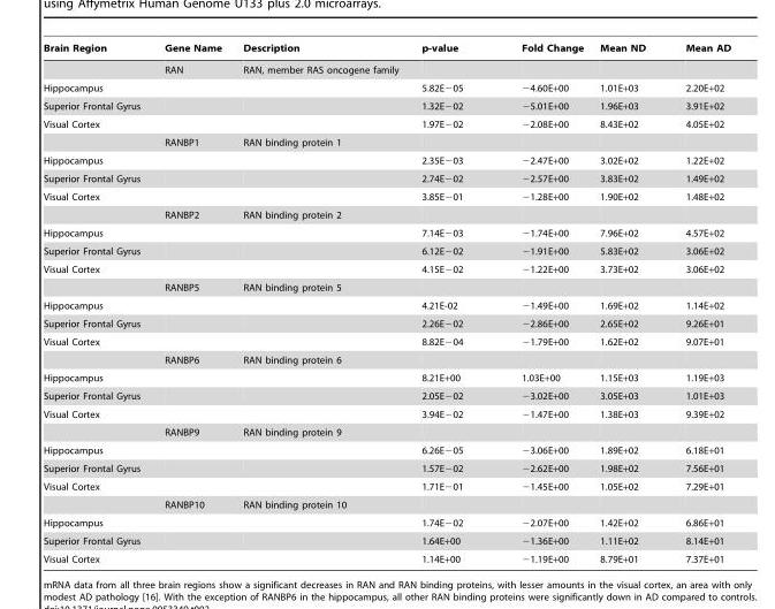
<table><thead><tr><td>Brain Region</td><td>Gene Name</td><td>Description</td><td>p-value</td><td>Fold Change</td><td>Mean ND</td><td>Mean AD</td></tr></thead><tbody><tr><td></td><td>RAN</td><td>RAN, member RAS oncogene family</td><td></td><td></td><td></td><td></td></tr><tr><td>Hippocampus</td><td></td><td></td><td>5.82E−05</td><td>−4.60E+00</td><td>1.01E+03</td><td>2.20E+02</td></tr><tr><td>Superior Frontal Gyrus</td><td></td><td></td><td>1.32E−02</td><td>−5.01E+00</td><td>1.96E+03</td><td>3.91E+02</td></tr><tr><td rowspan="2">Visual Cortex</td><td></td><td></td><td>1.97E−02</td><td>−2.08E+00</td><td>8.43E+02</td><td>4.05E+02</td></tr><tr><td>RANBP1</td><td>RAN binding protein 1</td><td></td><td></td><td></td><td></td></tr><tr><td>Hippocampus</td><td></td><td></td><td>2.35E−03</td><td>−2.47E+00</td><td>3.02E+02</td><td>1.22E+02</td></tr><tr><td>Superior Frontal Gyrus</td><td></td><td></td><td>2.74E−02</td><td>−2.57E+00</td><td>3.83E+02</td><td>1.49E+02</td></tr><tr><td rowspan="2">Visual Cortex</td><td></td><td></td><td>3.85E−01</td><td>−1.28E+00</td><td>1.90E+02</td><td>1.48E+02</td></tr><tr><td>RANBP2</td><td>RAN binding protein 2</td><td></td><td></td><td></td><td></td></tr><tr><td>Hippocampus</td><td></td><td></td><td>7.14E−03</td><td>−1.74E+00</td><td>7.96E+02</td><td>4.57E+02</td></tr><tr><td>Superior Frontal Gyrus</td><td></td><td></td><td>6.12E−02</td><td>−1.91E+00</td><td>5.83E+02</td><td>3.06E+02</td></tr><tr><td rowspan="2">Visual Cortex</td><td></td><td></td><td>4.15E−02</td><td>−1.22E+00</td><td>3.73E+02</td><td>3.06E+02</td></tr><tr><td>RANBP5</td><td>RAN binding protein 5</td><td></td><td></td><td></td><td></td></tr><tr><td>Hippocampus</td><td></td><td></td><td>4.21E-02</td><td>−1.49E+00</td><td>1.69E+02</td><td>1.14E+02</td></tr><tr><td>Superior Frontal Gyrus</td><td></td><td></td><td>2.26E−02</td><td>−2.86E+00</td><td>2.65E+02</td><td>9.26E+01</td></tr><tr><td rowspan="2">Visual Cortex</td><td></td><td></td><td>8.82E−04</td><td>−1.79E+00</td><td>1.62E+02</td><td>9.07E+01</td></tr><tr><td>RANBP6</td><td>RAN binding protein 6</td><td></td><td></td><td></td><td></td></tr><tr><td>Hippocampus</td><td></td><td></td><td>8.21E+00</td><td>1.03E+00</td><td>1.15E+03</td><td>1.19E+03</td></tr><tr><td>Superior Frontal Gyrus</td><td></td><td></td><td>2.05E−02</td><td>−3.02E+00</td><td>3.05E+03</td><td>1.01E+03</td></tr><tr><td rowspan="2">Visual Cortex</td><td></td><td></td><td>3.94E−02</td><td>−1.47E+00</td><td>1.38E+03</td><td>9.39E+02</td></tr><tr><td>RANBP9</td><td>RAN binding protein 9</td><td></td><td></td><td></td><td></td></tr><tr><td>Hippocampus</td><td></td><td></td><td>6.26E−05</td><td>−3.06E+00</td><td>1.89E+02</td><td>6.18E+01</td></tr><tr><td>Superior Frontal Gyrus</td><td></td><td></td><td>1.57E−02</td><td>−2.62E+00</td><td>1.98E+02</td><td>7.56E+01</td></tr><tr><td rowspan="2">Visual Cortex</td><td></td><td></td><td>1.71E−01</td><td>−1.45E+00</td><td>1.05E+02</td><td>7.29E+01</td></tr><tr><td>RANBP10</td><td>RAN binding protein 10</td><td></td><td></td><td></td><td></td></tr><tr><td>Hippocampus</td><td></td><td></td><td>1.74E−02</td><td>−2.07E+00</td><td>1.42E+02</td><td>6.86E+01</td></tr><tr><td>Superior Frontal Gyrus</td><td></td><td></td><td>1.64E+00</td><td>−1.36E+00</td><td>1.11E+02</td><td>8.14E+01</td></tr><tr><td>Visual Cortex</td><td></td><td></td><td>1.14E+00</td><td>−1.19E+00</td><td>8.79E+01</td><td>7.37E+01</td></tr></tbody></table>